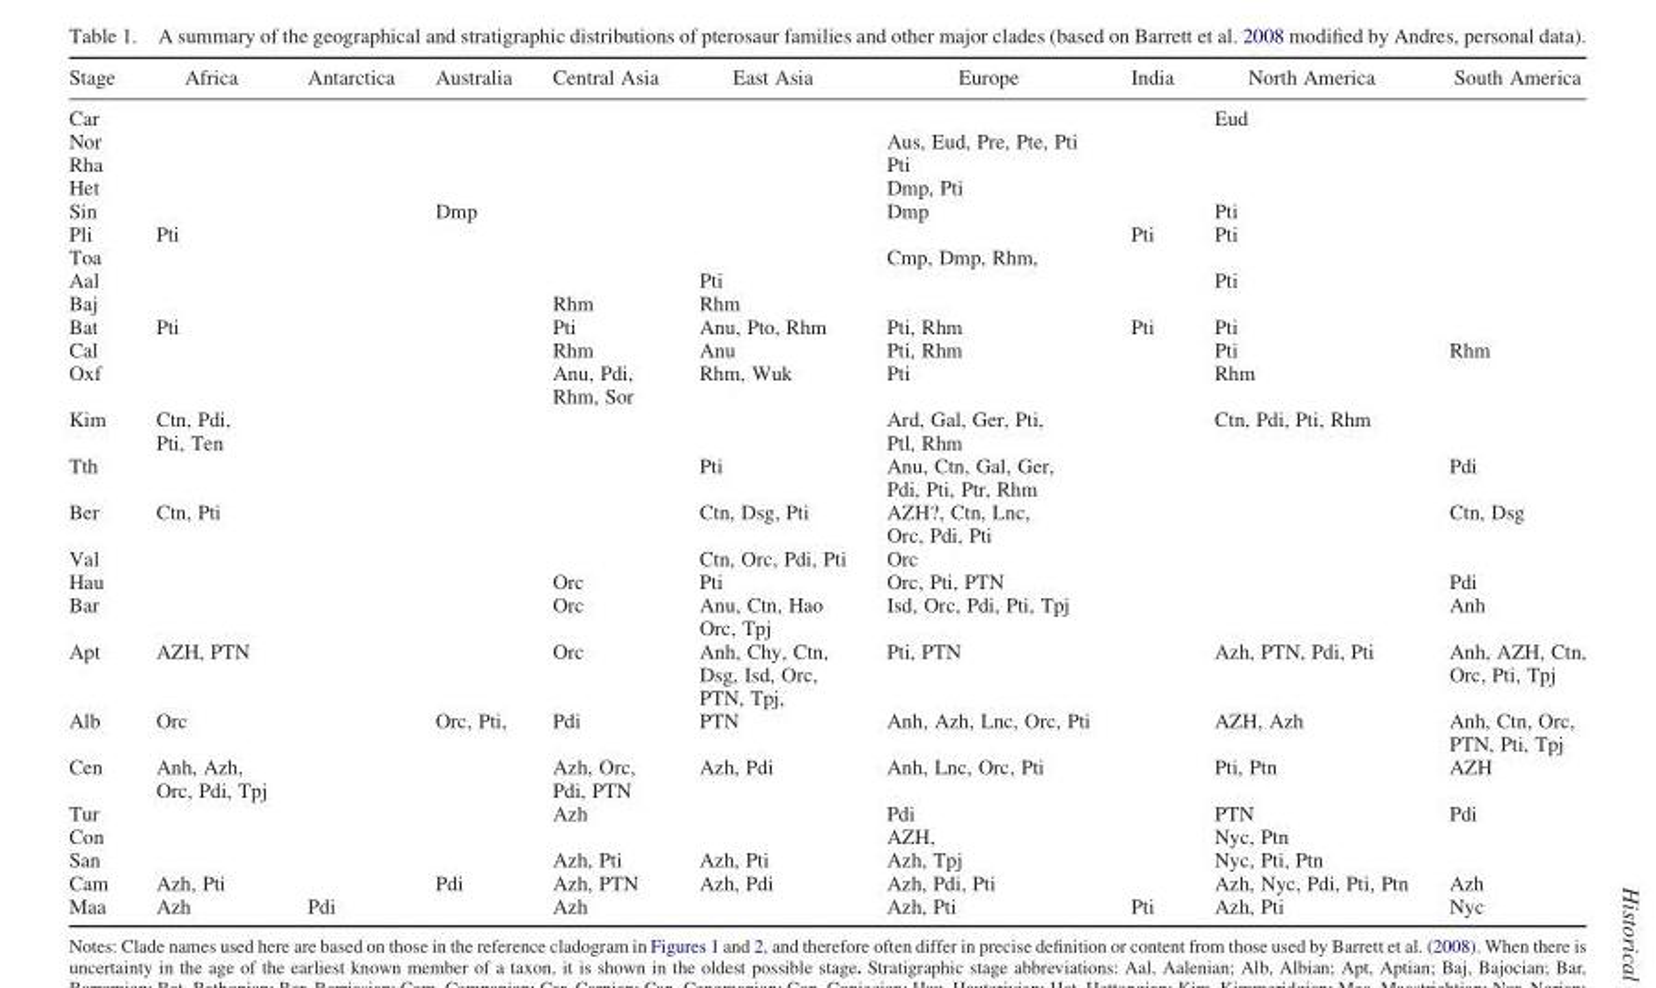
<table><thead><tr><td>Stage</td><td>Africa</td><td>Antarctica</td><td>Australia</td><td>Central Asia</td><td>East Asia</td><td>Europe</td><td>India</td><td>North America</td><td>South America</td></tr></thead><tbody><tr><td>Car</td><td></td><td></td><td></td><td></td><td></td><td></td><td></td><td>Eud</td><td></td></tr><tr><td>Nor</td><td></td><td></td><td></td><td></td><td></td><td>Aus, Eud, Pre, Pte, Pti</td><td></td><td></td><td></td></tr><tr><td>Rha</td><td></td><td></td><td></td><td></td><td></td><td>Pti</td><td></td><td></td><td></td></tr><tr><td>Het</td><td></td><td></td><td></td><td></td><td></td><td>Dmp, Pti</td><td></td><td></td><td></td></tr><tr><td>Sin</td><td></td><td></td><td>Dmp</td><td></td><td></td><td>Dmp</td><td></td><td>Pti</td><td></td></tr><tr><td>Pli</td><td>Pti</td><td></td><td></td><td></td><td></td><td></td><td>Pti</td><td>Pti</td><td></td></tr><tr><td>Toa</td><td></td><td></td><td></td><td></td><td></td><td>Cmp, Dmp, Rhm,</td><td></td><td></td><td></td></tr><tr><td>Aal</td><td></td><td></td><td></td><td></td><td>Pti</td><td></td><td></td><td>Pti</td><td></td></tr><tr><td>Baj</td><td></td><td></td><td></td><td>Rhm</td><td>Rhm</td><td></td><td></td><td></td><td></td></tr><tr><td>Bat</td><td>Pti</td><td></td><td></td><td>Pti</td><td>Anu, Pto, Rhm</td><td>Pti, Rhm</td><td>Pti</td><td>Pti</td><td></td></tr><tr><td>Cal</td><td></td><td></td><td></td><td>Rhm</td><td>Anu</td><td>Pti, Rhm</td><td></td><td>Pti</td><td>Rhm</td></tr><tr><td>Oxf</td><td></td><td></td><td></td><td>Anu, Pdi, Rhm, Sor</td><td>Rhm, Wuk</td><td>Pti</td><td></td><td>Rhm</td><td></td></tr><tr><td>Kim</td><td>Ctn, Pdi, Pti, Ten</td><td></td><td></td><td></td><td></td><td>Ard, Gal, Ger, Pti, Ptl, Rhm</td><td></td><td>Ctn, Pdi, Pti, Rhm</td><td></td></tr><tr><td>Tth</td><td></td><td></td><td></td><td></td><td>Pti</td><td>Anu, Ctn, Gal, Ger, Pdi, Pti, Ptr, Rhm</td><td></td><td></td><td>Pdi</td></tr><tr><td>Ber</td><td>Ctn, Pti</td><td></td><td></td><td></td><td>Ctn, Dsg, Pti</td><td>AZH?, Ctn, Lnc, Orc, Pdi, Pti</td><td></td><td></td><td>Ctn, Dsg</td></tr><tr><td>Val</td><td></td><td></td><td></td><td></td><td>Ctn, Orc, Pdi, Pti</td><td>Orc</td><td></td><td></td><td></td></tr><tr><td>Hau</td><td></td><td></td><td></td><td>Orc</td><td>Pti</td><td>Orc, Pti, PTN</td><td></td><td></td><td>Pdi</td></tr><tr><td>Bar</td><td></td><td></td><td></td><td>Orc</td><td>Anu, Ctn, Hao Orc, Tpj</td><td>Isd, Orc, Pdi, Pti, Tpj</td><td></td><td></td><td>Anh</td></tr><tr><td>Apt</td><td>AZH, PTN</td><td></td><td></td><td>Orc</td><td>Anh, Chy, Ctn, Dsg, Isd, Orc, PTN, Tpj,</td><td>Pti, PTN</td><td></td><td>Azh, PTN, Pdi, Pti</td><td>Anh, AZH, Ctn, Orc, Pti, Tpj</td></tr><tr><td>Alb</td><td>Orc</td><td></td><td>Orc, Pti,</td><td>Pdi</td><td>PTN</td><td>Anh, Azh, Lnc, Orc, Pti</td><td></td><td>AZH, Azh</td><td>Anh, Ctn, Orc, PTN, Pti, Tpj</td></tr><tr><td>Cen</td><td>Anh, Azh, Orc, Pdi, Tpj</td><td></td><td></td><td>Azh, Orc, Pdi, PTN</td><td>Azh, Pdi</td><td>Anh, Lnc, Orc, Pti</td><td></td><td>Pti, Ptn</td><td>AZH</td></tr><tr><td>Tur</td><td></td><td></td><td></td><td>Azh</td><td></td><td>Pdi</td><td></td><td>PTN</td><td>Pdi</td></tr><tr><td>Con</td><td></td><td></td><td></td><td></td><td></td><td>AZH,</td><td></td><td>Nyc, Ptn</td><td></td></tr><tr><td>San</td><td></td><td></td><td></td><td>Azh, Pti</td><td>Azh, Pti</td><td>Azh, Tpj</td><td></td><td>Nyc, Pti, Ptn</td><td></td></tr><tr><td>Cam</td><td>Azh, Pti</td><td></td><td>Pdi</td><td>Azh, PTN</td><td>Azh, Pdi</td><td>Azh, Pdi, Pti</td><td></td><td>Azh, Nyc, Pdi, Pti, Ptn</td><td>Azh</td></tr><tr><td>Maa</td><td>Azh</td><td>Pdi</td><td></td><td>Azh</td><td></td><td>Azh, Pti</td><td>Pti</td><td>Azh, Pti</td><td>Nyc</td></tr></tbody></table>